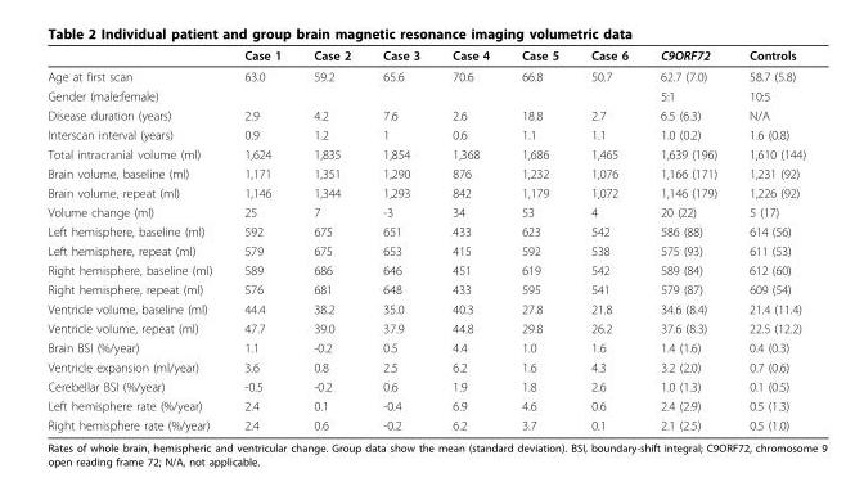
<table><thead><tr><td></td><td>Case 1</td><td>Case 2</td><td>Case 3</td><td>Case 4</td><td>Case 5</td><td>Case 6</td><td>C9ORF72</td><td>Controls</td></tr></thead><tbody><tr><td>Age at first scan</td><td>63.0</td><td>59.2</td><td>65.6</td><td>70.6</td><td>66.8</td><td>50.7</td><td>62.7 (7.0)</td><td>58.7 (5.8)</td></tr><tr><td>Gender (male:female)</td><td></td><td></td><td></td><td></td><td></td><td></td><td>5:1</td><td>10:5</td></tr><tr><td>Disease duration (years)</td><td>2.9</td><td>4.2</td><td>7.6</td><td>2.6</td><td>18.8</td><td>2.7</td><td>6.5 (6.3)</td><td>N/A</td></tr><tr><td>Interscan interval (years)</td><td>0.9</td><td>1.2</td><td>1</td><td>0.6</td><td>1.1</td><td>1.1</td><td>1.0 (0.2)</td><td>1.6 (0.8)</td></tr><tr><td>Total intracranial volume (ml)</td><td>1,624</td><td>1,835</td><td>1,854</td><td>1,368</td><td>1,686</td><td>1,465</td><td>1,639 (196)</td><td>1,610 (144)</td></tr><tr><td>Brain volume, baseline (ml)</td><td>1,171</td><td>1,351</td><td>1,290</td><td>876</td><td>1,232</td><td>1,076</td><td>1,166 (171)</td><td>1,231 (92)</td></tr><tr><td>Brain volume, repeat (ml)</td><td>1,146</td><td>1,344</td><td>1,293</td><td>842</td><td>1,179</td><td>1,072</td><td>1,146 (179)</td><td>1,226 (92)</td></tr><tr><td>Volume change (ml)</td><td>25</td><td>7</td><td>-3</td><td>34</td><td>53</td><td>4</td><td>20 (22)</td><td>5 (17)</td></tr><tr><td>Left hemisphere, baseline (ml)</td><td>592</td><td>675</td><td>651</td><td>433</td><td>623</td><td>542</td><td>586 (88)</td><td>614 (56)</td></tr><tr><td>Left hemisphere, repeat (ml)</td><td>579</td><td>675</td><td>653</td><td>415</td><td>592</td><td>538</td><td>575 (93)</td><td>611 (53)</td></tr><tr><td>Right hemisphere, baseline (ml)</td><td>589</td><td>686</td><td>646</td><td>451</td><td>619</td><td>542</td><td>589 (84)</td><td>612 (60)</td></tr><tr><td>Right hemisphere, repeat (ml)</td><td>576</td><td>681</td><td>648</td><td>433</td><td>595</td><td>541</td><td>579 (87)</td><td>609 (54)</td></tr><tr><td>Ventricle volume, baseline (ml)</td><td>44.4</td><td>38.2</td><td>35.0</td><td>40.3</td><td>27.8</td><td>21.8</td><td>34.6 (8.4)</td><td>21.4 (11.4)</td></tr><tr><td>Ventricle volume, repeat (ml)</td><td>47.7</td><td>39.0</td><td>37.9</td><td>44.8</td><td>29.8</td><td>26.2</td><td>37.6 (8.3)</td><td>22.5 (12.2)</td></tr><tr><td>Brain BSI (%/year)</td><td>1.1</td><td>-0.2</td><td>0.5</td><td>4.4</td><td>1.0</td><td>1.6</td><td>1.4 (1.6)</td><td>0.4 (0.3)</td></tr><tr><td>Ventricle expansion (ml/year)</td><td>3.6</td><td>0.8</td><td>2.5</td><td>6.2</td><td>1.6</td><td>4.3</td><td>3.2 (2.0)</td><td>0.7 (0.6)</td></tr><tr><td>Cerebellar BSI (%/year)</td><td>-0.5</td><td>-0.2</td><td>0.6</td><td>1.9</td><td>1.8</td><td>2.6</td><td>1.0 (1.3)</td><td>0.1 (0.5)</td></tr><tr><td>Left hemisphere rate (%/year)</td><td>2.4</td><td>0.1</td><td>-0.4</td><td>6.9</td><td>4.6</td><td>0.6</td><td>2.4 (2.9)</td><td>0.5 (1.3)</td></tr><tr><td>Right hemisphere rate (%/year)</td><td>2.4</td><td>0.6</td><td>-0.2</td><td>6.2</td><td>3.7</td><td>0.1</td><td>2.1 (2.5)</td><td>0.5 (1.0)</td></tr></tbody></table>